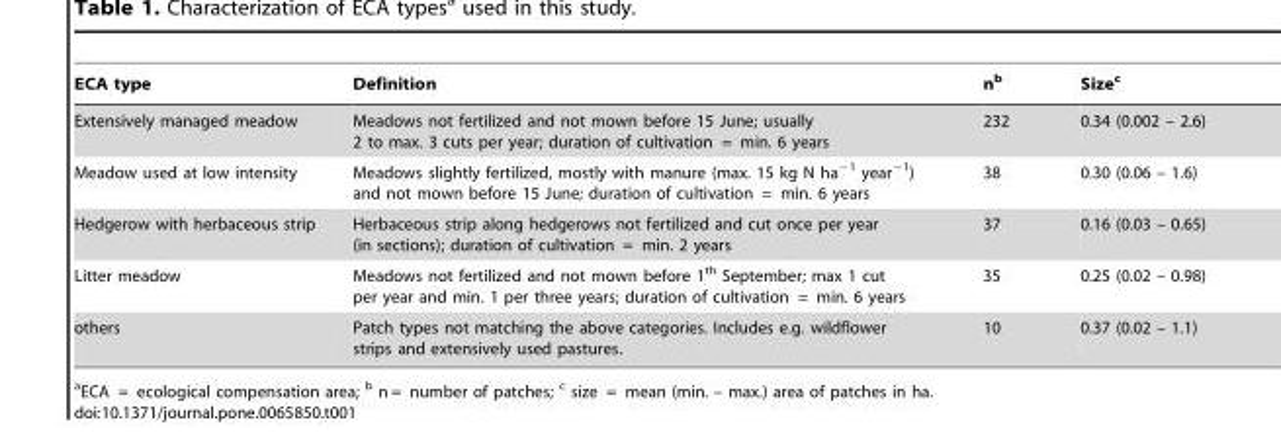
<table><thead><tr><td>ECA type</td><td>Definition</td><td>n<sup>b</sup></td><td>Size<sup>c</sup></td></tr></thead><tbody><tr><td>Extensively managed meadow</td><td>Meadows not fertilized and not mown before 15 June; usually 2 to max. 3 cuts per year; duration of cultivation = min. 6 years</td><td>232</td><td>0.34 (0.002 – 2.6)</td></tr><tr><td>Meadow used at low intensity</td><td>Meadows slightly fertilized, mostly with manure (max. 15 kg N ha<sup>−1</sup> year<sup>−1</sup>) and not mown before 15 June; duration of cultivation = min. 6 years</td><td>38</td><td>0.30 (0.06 – 1.6)</td></tr><tr><td>Hedgerow with herbaceous strip</td><td>Herbaceous strip along hedgerows not fertilized and cut once per year (in sections); duration of cultivation = min. 2 years</td><td>37</td><td>0.16 (0.03 – 0.65)</td></tr><tr><td>Litter meadow</td><td>Meadows not fertilized and not mown before 1<sup>th</sup> September; max 1 cut per year and min. 1 per three years; duration of cultivation = min. 6 years</td><td>35</td><td>0.25 (0.02 – 0.98)</td></tr><tr><td>others</td><td>Patch types not matching the above categories. Includes e.g. wildflower strips and extensively used pastures.</td><td>10</td><td>0.37 (0.02 – 1.1)</td></tr></tbody></table>